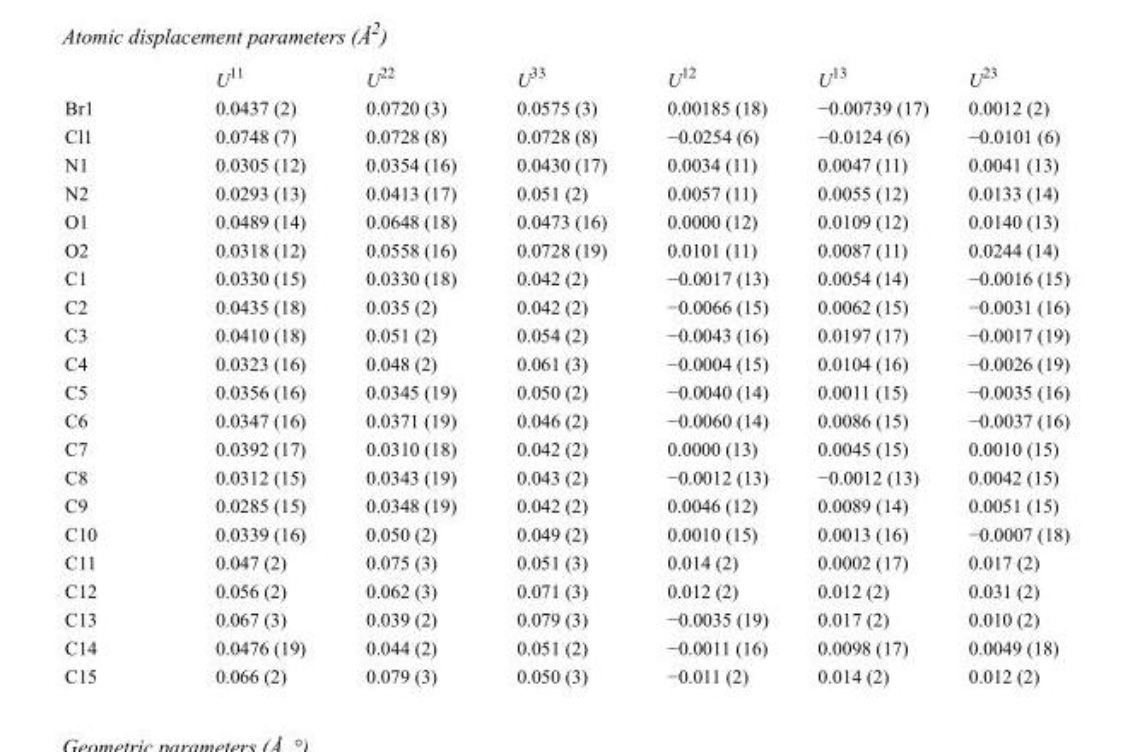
<table><thead><tr><td></td><td>U<sup>11</sup></td><td>U<sup>22</sup></td><td>U<sup>33</sup></td><td>U<sup>12</sup></td><td>U<sup>13</sup></td><td>U<sup>23</sup></td></tr></thead><tbody><tr><td>Br1</td><td>0.0437 (2)</td><td>0.0720 (3)</td><td>0.0575 (3)</td><td>0.00185 (18)</td><td>−0.00739 (17)</td><td>0.0012 (2)</td></tr><tr><td>Cl1</td><td>0.0748 (7)</td><td>0.0728 (8)</td><td>0.0728 (8)</td><td>−0.0254 (6)</td><td>−0.0124 (6)</td><td>−0.0101 (6)</td></tr><tr><td>N1</td><td>0.0305 (12)</td><td>0.0354 (16)</td><td>0.0430 (17)</td><td>0.0034 (11)</td><td>0.0047 (11)</td><td>0.0041 (13)</td></tr><tr><td>N2</td><td>0.0293 (13)</td><td>0.0413 (17)</td><td>0.051 (2)</td><td>0.0057 (11)</td><td>0.0055 (12)</td><td>0.0133 (14)</td></tr><tr><td>O1</td><td>0.0489 (14)</td><td>0.0648 (18)</td><td>0.0473 (16)</td><td>0.0000 (12)</td><td>0.0109 (12)</td><td>0.0140 (13)</td></tr><tr><td>O2</td><td>0.0318 (12)</td><td>0.0558 (16)</td><td>0.0728 (19)</td><td>0.0101 (11)</td><td>0.0087 (11)</td><td>0.0244 (14)</td></tr><tr><td>C1</td><td>0.0330 (15)</td><td>0.0330 (18)</td><td>0.042 (2)</td><td>−0.0017 (13)</td><td>0.0054 (14)</td><td>−0.0016 (15)</td></tr><tr><td>C2</td><td>0.0435 (18)</td><td>0.035 (2)</td><td>0.042 (2)</td><td>−0.0066 (15)</td><td>0.0062 (15)</td><td>−0.0031 (16)</td></tr><tr><td>C3</td><td>0.0410 (18)</td><td>0.051 (2)</td><td>0.054 (2)</td><td>−0.0043 (16)</td><td>0.0197 (17)</td><td>−0.0017 (19)</td></tr><tr><td>C4</td><td>0.0323 (16)</td><td>0.048 (2)</td><td>0.061 (3)</td><td>−0.0004 (15)</td><td>0.0104 (16)</td><td>−0.0026 (19)</td></tr><tr><td>C5</td><td>0.0356 (16)</td><td>0.0345 (19)</td><td>0.050 (2)</td><td>−0.0040 (14)</td><td>0.0011 (15)</td><td>−0.0035 (16)</td></tr><tr><td>C6</td><td>0.0347 (16)</td><td>0.0371 (19)</td><td>0.046 (2)</td><td>−0.0060 (14)</td><td>0.0086 (15)</td><td>−0.0037 (16)</td></tr><tr><td>C7</td><td>0.0392 (17)</td><td>0.0310 (18)</td><td>0.042 (2)</td><td>0.0000 (13)</td><td>0.0045 (15)</td><td>0.0010 (15)</td></tr><tr><td>C8</td><td>0.0312 (15)</td><td>0.0343 (19)</td><td>0.043 (2)</td><td>−0.0012 (13)</td><td>−0.0012 (13)</td><td>0.0042 (15)</td></tr><tr><td>C9</td><td>0.0285 (15)</td><td>0.0348 (19)</td><td>0.042 (2)</td><td>0.0046 (12)</td><td>0.0089 (14)</td><td>0.0051 (15)</td></tr><tr><td>C10</td><td>0.0339 (16)</td><td>0.050 (2)</td><td>0.049 (2)</td><td>0.0010 (15)</td><td>0.0013 (16)</td><td>−0.0007 (18)</td></tr><tr><td>C11</td><td>0.047 (2)</td><td>0.075 (3)</td><td>0.051 (3)</td><td>0.014 (2)</td><td>0.0002 (17)</td><td>0.017 (2)</td></tr><tr><td>C12</td><td>0.056 (2)</td><td>0.062 (3)</td><td>0.071 (3)</td><td>0.012 (2)</td><td>0.012 (2)</td><td>0.031 (2)</td></tr><tr><td>C13</td><td>0.067 (3)</td><td>0.039 (2)</td><td>0.079 (3)</td><td>−0.0035 (19)</td><td>0.017 (2)</td><td>0.010 (2)</td></tr><tr><td>C14</td><td>0.0476 (19)</td><td>0.044 (2)</td><td>0.051 (2)</td><td>−0.0011 (16)</td><td>0.0098 (17)</td><td>0.0049 (18)</td></tr><tr><td>C15</td><td>0.066 (2)</td><td>0.079 (3)</td><td>0.050 (3)</td><td>−0.011 (2)</td><td>0.014 (2)</td><td>0.012 (2)</td></tr></tbody></table>